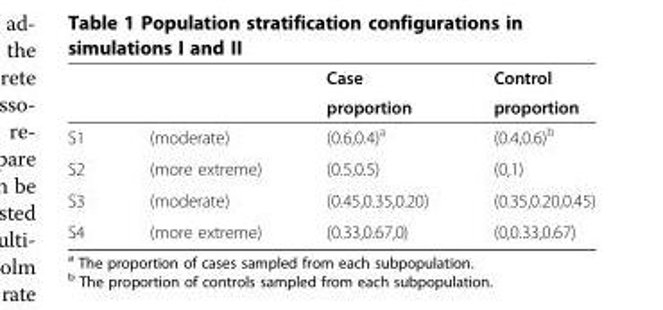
<table><thead><tr><td rowspan="2"></td><td rowspan="2"></td><td rowspan="2">Case proportion</td><td rowspan="2">Control proportion</td></tr><tr></tr></thead><tbody><tr><td>S1</td><td>(moderate)</td><td>(0.6,0.4)<sup>a</sup></td><td>(0.4,0.6)<sup>b</sup></td></tr><tr><td>S2</td><td>(more extreme)</td><td>(0.5,0.5)</td><td>(0,1)</td></tr><tr><td>S3</td><td>(moderate)</td><td>(0.45,0.35,0.20)</td><td>(0.35,0.20,0.45)</td></tr><tr><td>S4</td><td>(more extreme)</td><td>(0.33,0.67,0)</td><td>(0,0.33,0.67)</td></tr></tbody></table>